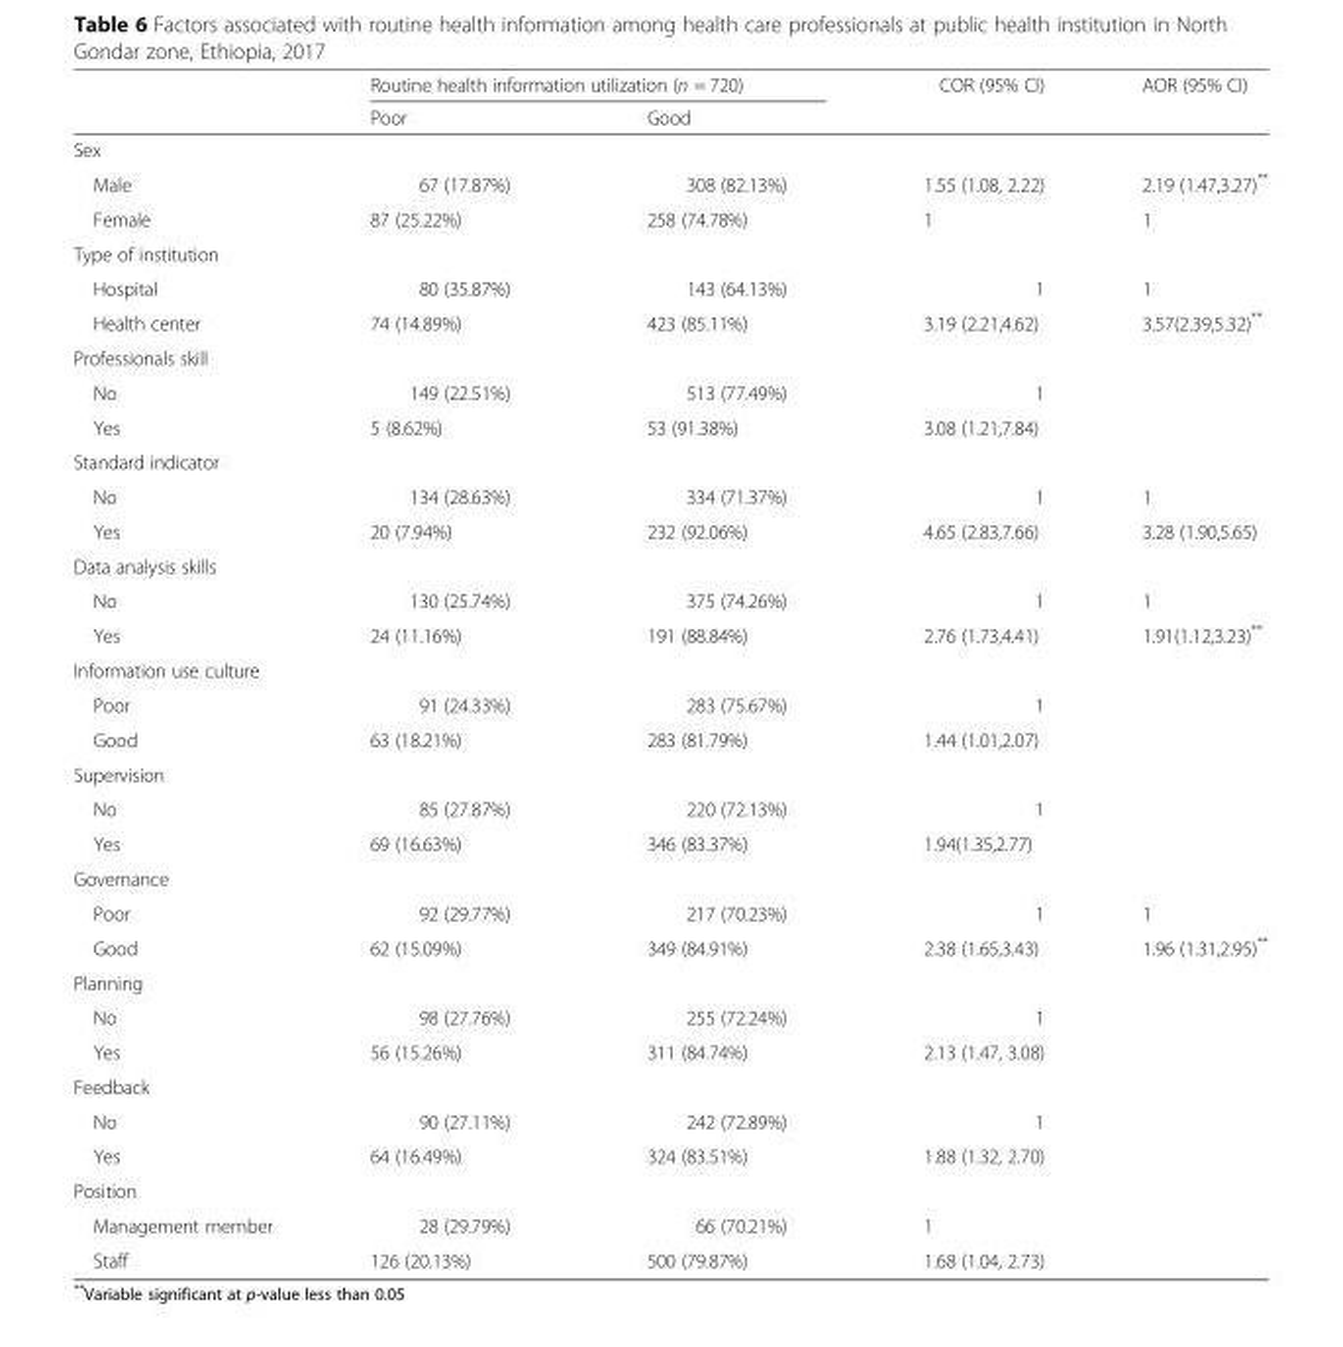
<table><thead><tr><td rowspan="2"></td><td colspan="2">Routine health information utilization (n = 720)</td><td rowspan="2">COR (95% CI)</td><td rowspan="2">AOR (95% CI)</td></tr><tr><td>Poor</td><td>Good</td></tr></thead><tbody><tr><td colspan="5">Sex</td></tr><tr><td>Male</td><td>67 (17.87%)</td><td>308 (82.13%)</td><td>1.55 (1.08, 2.22)</td><td>2.19 (1.47,3.27)**</td></tr><tr><td>Female</td><td>87 (25.22%)</td><td>258 (74.78%)</td><td>1</td><td>1</td></tr><tr><td colspan="5">Type of institution</td></tr><tr><td>Hospital</td><td>80 (35.87%)</td><td>143 (64.13%)</td><td>1</td><td>1</td></tr><tr><td>Health center</td><td>74 (14.89%)</td><td>423 (85.11%)</td><td>3.19 (2.21,4.62)</td><td>3.57(2.39,5.32)**</td></tr><tr><td colspan="5">Professionals skill</td></tr><tr><td>No</td><td>149 (22.51%)</td><td>513 (77.49%)</td><td>1</td><td></td></tr><tr><td>Yes</td><td>5 (8.62%)</td><td>53 (91.38%)</td><td>3.08 (1.21,7.84)</td><td></td></tr><tr><td colspan="5">Standard indicator</td></tr><tr><td>No</td><td>134 (28.63%)</td><td>334 (71.37%)</td><td>1</td><td>1</td></tr><tr><td>Yes</td><td>20 (7.94%)</td><td>232 (92.06%)</td><td>4.65 (2.83,7.66)</td><td>3.28 (1.90,5.65)</td></tr><tr><td colspan="5">Data analysis skills</td></tr><tr><td>No</td><td>130 (25.74%)</td><td>375 (74.26%)</td><td>1</td><td>1</td></tr><tr><td>Yes</td><td>24 (11.16%)</td><td>191 (88.84%)</td><td>2.76 (1.73,4.41)</td><td>1.91(1.12,3.23)**</td></tr><tr><td colspan="5">Information use culture</td></tr><tr><td>Poor</td><td>91 (24.33%)</td><td>283 (75.67%)</td><td>1</td><td></td></tr><tr><td>Good</td><td>63 (18.21%)</td><td>283 (81.79%)</td><td>1.44 (1.01,2.07)</td><td></td></tr><tr><td colspan="5">Supervision</td></tr><tr><td>No</td><td>85 (27.87%)</td><td>220 (72.13%)</td><td>1</td><td></td></tr><tr><td>Yes</td><td>69 (16.63%)</td><td>346 (83.37%)</td><td>1.94(1.35,2.77)</td><td></td></tr><tr><td colspan="5">Governance</td></tr><tr><td>Poor</td><td>92 (29.77%)</td><td>217 (70.23%)</td><td>1</td><td>1</td></tr><tr><td>Good</td><td>62 (15.09%)</td><td>349 (84.91%)</td><td>2.38 (1.65,3.43)</td><td>1.96 (1.31,2.95)**</td></tr><tr><td colspan="5">Planning</td></tr><tr><td>No</td><td>98 (27.76%)</td><td>255 (72.24%)</td><td>1</td><td></td></tr><tr><td>Yes</td><td>56 (15.26%)</td><td>311 (84.74%)</td><td>2.13 (1.47, 3.08)</td><td></td></tr><tr><td colspan="5">Feedback</td></tr><tr><td>No</td><td>90 (27.11%)</td><td>242 (72.89%)</td><td>1</td><td></td></tr><tr><td>Yes</td><td>64 (16.49%)</td><td>324 (83.51%)</td><td>1.88 (1.32, 2.70)</td><td></td></tr><tr><td colspan="5">Position</td></tr><tr><td>Management member</td><td>28 (29.79%)</td><td>66 (70.21%)</td><td>1</td><td></td></tr><tr><td>Staff</td><td>126 (20.13%)</td><td>500 (79.87%)</td><td>1.68 (1.04, 2.73)</td><td></td></tr></tbody></table>